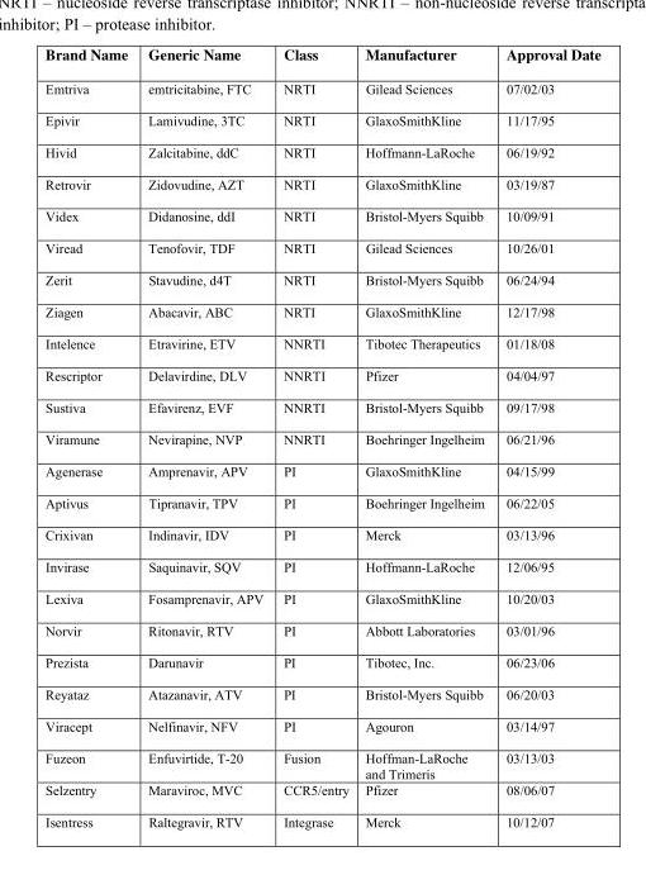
<table><thead><tr><td>Brand Name</td><td>Generic Name</td><td>Class</td><td>Manufacturer</td><td>Approval Date</td></tr></thead><tbody><tr><td>Emtriva</td><td>emtricitabine, FTC</td><td>NRTI</td><td>Gilead Sciences</td><td>07/02/03</td></tr><tr><td>Epivir</td><td>Lamivudine, 3TC</td><td>NRTI</td><td>GlaxoSmithKline</td><td>11/17/95</td></tr><tr><td>Hivid</td><td>Zalcitabine, ddC</td><td>NRTI</td><td>Hoffmann-LaRoche</td><td>06/19/92</td></tr><tr><td>Retrovir</td><td>Zidovudine, AZT</td><td>NRTI</td><td>GlaxoSmithKline</td><td>03/19/87</td></tr><tr><td>Videx</td><td>Didanosine, ddI</td><td>NRTI</td><td>Bristol-Myers Squibb</td><td>10/09/91</td></tr><tr><td>Viread</td><td>Tenofovir, TDF</td><td>NRTI</td><td>Gilead Sciences</td><td>10/26/01</td></tr><tr><td>Zerit</td><td>Stavudine, d4T</td><td>NRTI</td><td>Bristol-Myers Squibb</td><td>06/24/94</td></tr><tr><td>Ziagen</td><td>Abacavir, ABC</td><td>NRTI</td><td>GlaxoSmithKline</td><td>12/17/98</td></tr><tr><td>Intelence</td><td>Etravirine, ETV</td><td>NNRTI</td><td>Tibotec Therapeutics</td><td>01/18/08</td></tr><tr><td>Rescriptor</td><td>Delavirdine, DLV</td><td>NNRTI</td><td>Pfizer</td><td>04/04/97</td></tr><tr><td>Sustiva</td><td>Efavirenz, EVF</td><td>NNRTI</td><td>Bristol-Myers Squibb</td><td>09/17/98</td></tr><tr><td>Viramune</td><td>Nevirapine, NVP</td><td>NNRTI</td><td>Boehringer Ingelheim</td><td>06/21/96</td></tr><tr><td>Agenerase</td><td>Amprenavir, APV</td><td>PI</td><td>GlaxoSmithKline</td><td>04/15/99</td></tr><tr><td>Aptivus</td><td>Tipranavir, TPV</td><td>PI</td><td>Boehringer Ingelheim</td><td>06/22/05</td></tr><tr><td>Crixivan</td><td>Indinavir, IDV</td><td>PI</td><td>Merck</td><td>03/13/96</td></tr><tr><td>Invirase</td><td>Saquinavir, SQV</td><td>PI</td><td>Hoffmann-LaRoche</td><td>12/06/95</td></tr><tr><td>Lexiva</td><td>Fosamprenavir, APV</td><td>PI</td><td>GlaxoSmithKline</td><td>10/20/03</td></tr><tr><td>Norvir</td><td>Ritonavir, RTV</td><td>PI</td><td>Abbott Laboratories</td><td>03/01/96</td></tr><tr><td>Prezista</td><td>Darunavir</td><td>PI</td><td>Tibotec, Inc.</td><td>06/23/06</td></tr><tr><td>Reyataz</td><td>Atazanavir, ATV</td><td>PI</td><td>Bristol-Myers Squibb</td><td>06/20/03</td></tr><tr><td>Viracept</td><td>Nelfinavir, NFV</td><td>PI</td><td>Agouron</td><td>03/14/97</td></tr><tr><td>Fuzeon</td><td>Enfuvirtide, T-20</td><td>Fusion</td><td>Hoffman-LaRoche and Trimeris</td><td>03/13/03</td></tr><tr><td>Selzentry</td><td>Maraviroc, MVC</td><td>CCR5/entry</td><td>Pfizer</td><td>08/06/07</td></tr><tr><td>Isentress</td><td>Raltegravir, RTV</td><td>Integrase</td><td>Merck</td><td>10/12/07</td></tr></tbody></table>